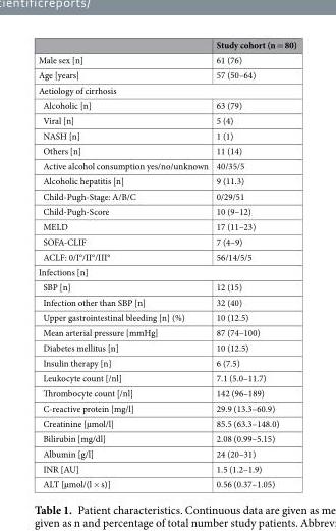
<table><thead><tr><td></td><td>Study cohort (n = 80)</td></tr></thead><tbody><tr><td>Male sex [n]</td><td>61 (76)</td></tr><tr><td>Age [years]</td><td>57 (50–64)</td></tr><tr><td colspan="2">Aetiology of cirrhosis</td></tr><tr><td>Alcoholic [n]</td><td>63 (79)</td></tr><tr><td>Viral [n]</td><td>5 (4)</td></tr><tr><td>NASH [n]</td><td>1 (1)</td></tr><tr><td>Others [n]</td><td>11 (14)</td></tr><tr><td>Active alcohol consumption yes/no/unknown</td><td>40/35/5</td></tr><tr><td>Alcoholic hepatitis [n]</td><td>9 (11.3)</td></tr><tr><td>Child-Pugh-Stage: A/B/C</td><td>0/29/51</td></tr><tr><td>Child-Pugh-Score</td><td>10 (9–12)</td></tr><tr><td>MELD</td><td>17 (11–23)</td></tr><tr><td>SOFA-CLIF</td><td>7 (4–9)</td></tr><tr><td>ACLF: 0/I°/II°/III°</td><td>56/14/5/5</td></tr><tr><td colspan="2">Infections [n]</td></tr><tr><td>SBP [n]</td><td>12 (15)</td></tr><tr><td>Infection other than SBP [n]</td><td>32 (40)</td></tr><tr><td>Upper gastrointestinal bleeding [n] (%)</td><td>10 (12.5)</td></tr><tr><td>Mean arterial pressure [mmHg]</td><td>87 (74–100)</td></tr><tr><td>Diabetes mellitus [n]</td><td>10 (12.5)</td></tr><tr><td>Insulin therapy [n]</td><td>6 (7.5)</td></tr><tr><td>Leukocyte count [/nl]</td><td>7.1 (5.0–11.7)</td></tr><tr><td>Thrombocyte count [/nl]</td><td>142 (96–189)</td></tr><tr><td>C-reactive protein [mg/l]</td><td>29.9 (13.3–60.9)</td></tr><tr><td>Creatinine [µmol/l]</td><td>85.5 (63.3–148.0)</td></tr><tr><td>Bilirubin [mg/dl]</td><td>2.08 (0.99–5.15)</td></tr><tr><td>Albumin [g/l]</td><td>24 (20–31)</td></tr><tr><td>INR [AU]</td><td>1.5 (1.2–1.9)</td></tr><tr><td>ALT [µmol/(l × s)]</td><td>0.56 (0.37–1.05)</td></tr></tbody></table>